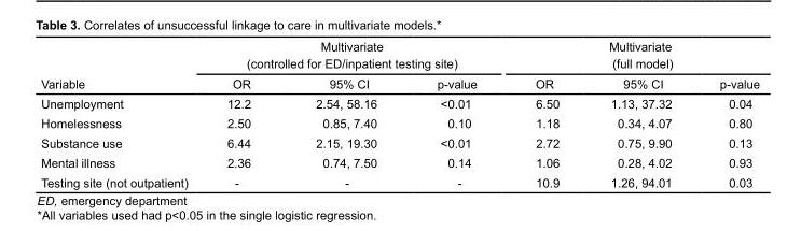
<table><thead><tr><td rowspan="2">Variable</td><td colspan="3">Multivariate (controlled for ED/inpatient testing site)</td><td colspan="3">Multivariate (full model)</td></tr><tr><td>OR</td><td>95% CI</td><td>p-value</td><td>OR</td><td>95% CI</td><td>p-value</td></tr></thead><tbody><tr><td>Unemployment</td><td>12.2</td><td>2.54, 58.16</td><td>&lt;0.01</td><td>6.50</td><td>1.13, 37.32</td><td>0.04</td></tr><tr><td>Homelessness</td><td>2.50</td><td>0.85, 7.40</td><td>0.10</td><td>1.18</td><td>0.34, 4.07</td><td>0.80</td></tr><tr><td>Substance use</td><td>6.44</td><td>2.15, 19.30</td><td>&lt;0.01</td><td>2.72</td><td>0.75, 9.90</td><td>0.13</td></tr><tr><td>Mental illness</td><td>2.36</td><td>0.74, 7.50</td><td>0.14</td><td>1.06</td><td>0.28, 4.02</td><td>0.93</td></tr><tr><td>Testing site (not outpatient)</td><td>-</td><td>-</td><td>-</td><td>10.9</td><td>1.26, 94.01</td><td>0.03</td></tr></tbody></table>